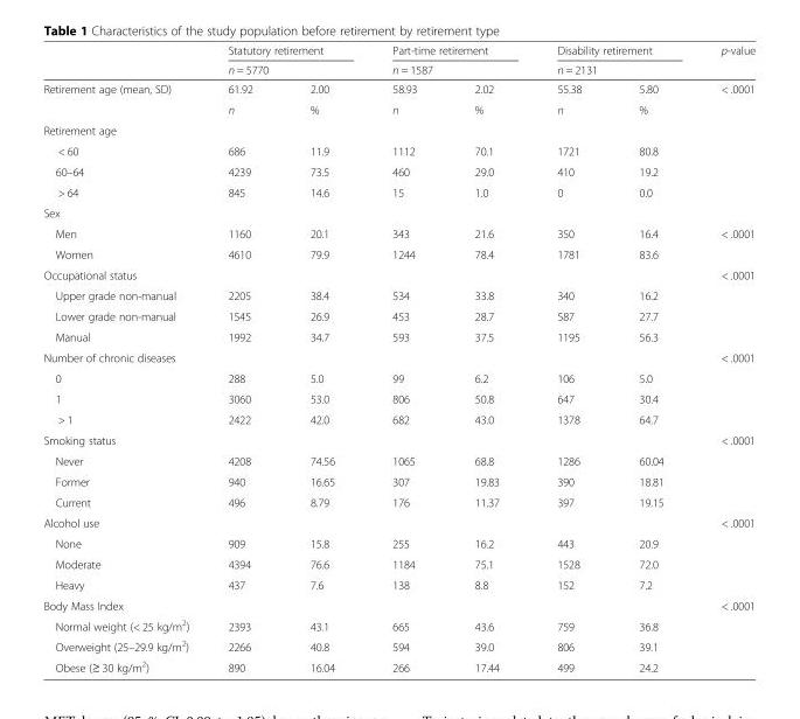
<table><thead><tr><td rowspan="3">Retirement age (mean, SD)</td><td rowspan="2" colspan="2">Statutory retirement n = 5770</td><td rowspan="2" colspan="2">Part-time retirement n = 1587</td><td rowspan="2" colspan="2">Disability retirement n = 2131</td><td rowspan="3">p-value &lt; .0001</td></tr><tr></tr><tr><td>61.92</td><td>2.00</td><td>58.93</td><td>2.02</td><td>55.38</td><td>5.80</td></tr></thead><tbody><tr><td></td><td>n</td><td>%</td><td>n</td><td>%</td><td>n</td><td>%</td><td></td></tr><tr><td colspan="8">Retirement age</td></tr><tr><td>&lt; 60</td><td>686</td><td>11.9</td><td>1112</td><td>70.1</td><td>1721</td><td>80.8</td><td></td></tr><tr><td>60–64</td><td>4239</td><td>73.5</td><td>460</td><td>29.0</td><td>410</td><td>19.2</td><td></td></tr><tr><td>&gt; 64</td><td>845</td><td>14.6</td><td>15</td><td>1.0</td><td>0</td><td>0.0</td><td></td></tr><tr><td colspan="8">Sex</td></tr><tr><td>Men</td><td>1160</td><td>20.1</td><td>343</td><td>21.6</td><td>350</td><td>16.4</td><td>&lt; .0001</td></tr><tr><td>Women</td><td>4610</td><td>79.9</td><td>1244</td><td>78.4</td><td>1781</td><td>83.6</td><td></td></tr><tr><td>Occupational status</td><td></td><td></td><td></td><td></td><td></td><td></td><td>&lt; .0001</td></tr><tr><td>Upper grade non-manual</td><td>2205</td><td>38.4</td><td>534</td><td>33.8</td><td>340</td><td>16.2</td><td></td></tr><tr><td>Lower grade non-manual</td><td>1545</td><td>26.9</td><td>453</td><td>28.7</td><td>587</td><td>27.7</td><td></td></tr><tr><td>Manual</td><td>1992</td><td>34.7</td><td>593</td><td>37.5</td><td>1195</td><td>56.3</td><td></td></tr><tr><td>Number of chronic diseases</td><td></td><td></td><td></td><td></td><td></td><td></td><td>&lt; .0001</td></tr><tr><td>0</td><td>288</td><td>5.0</td><td>99</td><td>6.2</td><td>106</td><td>5.0</td><td></td></tr><tr><td>1</td><td>3060</td><td>53.0</td><td>806</td><td>50.8</td><td>647</td><td>30.4</td><td></td></tr><tr><td>&gt; 1</td><td>2422</td><td>42.0</td><td>682</td><td>43.0</td><td>1378</td><td>64.7</td><td></td></tr><tr><td>Smoking status</td><td></td><td></td><td></td><td></td><td></td><td></td><td>&lt; .0001</td></tr><tr><td>Never</td><td>4208</td><td>74.56</td><td>1065</td><td>68.8</td><td>1286</td><td>60.04</td><td></td></tr><tr><td>Former</td><td>940</td><td>16.65</td><td>307</td><td>19.83</td><td>390</td><td>18.81</td><td></td></tr><tr><td>Current</td><td>496</td><td>8.79</td><td>176</td><td>11.37</td><td>397</td><td>19.15</td><td></td></tr><tr><td>Alcohol use</td><td></td><td></td><td></td><td></td><td></td><td></td><td>&lt; .0001</td></tr><tr><td>None</td><td>909</td><td>15.8</td><td>255</td><td>16.2</td><td>443</td><td>20.9</td><td></td></tr><tr><td>Moderate</td><td>4394</td><td>76.6</td><td>1184</td><td>75.1</td><td>1528</td><td>72.0</td><td></td></tr><tr><td>Heavy</td><td>437</td><td>7.6</td><td>138</td><td>8.8</td><td>152</td><td>7.2</td><td></td></tr><tr><td>Body Mass Index</td><td></td><td></td><td></td><td></td><td></td><td></td><td>&lt; .0001</td></tr><tr><td>Normal weight (&lt; 25 kg/m<sup>2</sup>)</td><td>2393</td><td>43.1</td><td>665</td><td>43.6</td><td>759</td><td>36.8</td><td></td></tr><tr><td>Overweight (25–29.9 kg/m<sup>2</sup>)</td><td>2266</td><td>40.8</td><td>594</td><td>39.0</td><td>806</td><td>39.1</td><td></td></tr><tr><td>Obese (≥ 30 kg/m<sup>2</sup>)</td><td>890</td><td>16.04</td><td>266</td><td>17.44</td><td>499</td><td>24.2</td><td></td></tr></tbody></table>